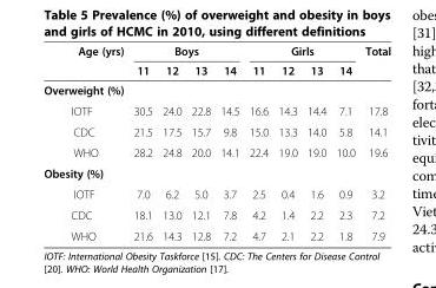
<table><thead><tr><td rowspan="2">Age (yrs)</td><td colspan="4">Boys</td><td colspan="4">Girls</td><td rowspan="2">Total</td></tr><tr><td>11</td><td>12</td><td>13</td><td>14</td><td>11</td><td>12</td><td>13</td><td>14</td></tr></thead><tbody><tr><td colspan="10">Overweight (%)</td></tr><tr><td>IOTF</td><td>30.5</td><td>24.0</td><td>22.8</td><td>14.5</td><td>16.6</td><td>14.3</td><td>14.4</td><td>7.1</td><td>17.8</td></tr><tr><td>CDC</td><td>21.5</td><td>17.5</td><td>15.7</td><td>9.8</td><td>15.0</td><td>13.3</td><td>14.0</td><td>5.8</td><td>14.1</td></tr><tr><td>WHO</td><td>28.2</td><td>24.8</td><td>20.0</td><td>14.1</td><td>22.4</td><td>19.0</td><td>19.0</td><td>10.0</td><td>19.6</td></tr><tr><td colspan="10">Obesity (%)</td></tr><tr><td>IOTF</td><td>7.0</td><td>6.2</td><td>5.0</td><td>3.7</td><td>2.5</td><td>0.4</td><td>1.6</td><td>0.9</td><td>3.2</td></tr><tr><td>CDC</td><td>18.1</td><td>13.0</td><td>12.1</td><td>7.8</td><td>4.2</td><td>1.4</td><td>2.2</td><td>2.3</td><td>7.2</td></tr><tr><td>WHO</td><td>21.6</td><td>14.3</td><td>12.8</td><td>7.2</td><td>4.7</td><td>2.1</td><td>2.2</td><td>1.8</td><td>7.9</td></tr></tbody></table>